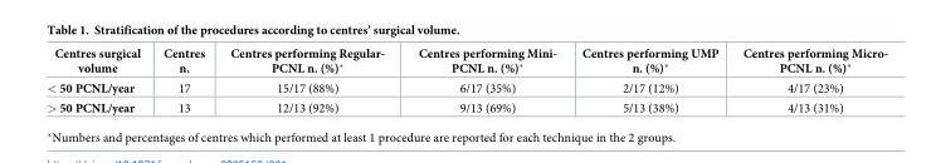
<table><thead><tr><td>Centres surgical volume</td><td>Centres n.</td><td>Centres performing Regular- PCNL n. (%)*</td><td>Centres performing Mini- PCNL n. (%)*</td><td>Centres performing UMP n. (%)*</td><td>Centres performing Micro- PCNL n. (%)*</td></tr></thead><tbody><tr><td>&lt; 50 PCNL/year</td><td>17</td><td>15/17 (88%)</td><td>6/17 (35%)</td><td>2/17 (12%)</td><td>4/17 (23%)</td></tr><tr><td>&gt; 50 PCNL/year</td><td>13</td><td>12/13 (92%)</td><td>9/13 (69%)</td><td>5/13 (38%)</td><td>4/13 (31%)</td></tr></tbody></table>